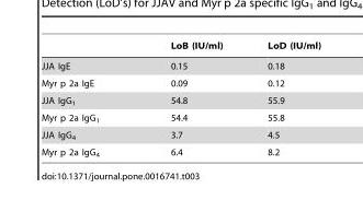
<table><thead><tr><td></td><td>LoB (IU/ml)</td><td>LoD (IU/ml)</td></tr></thead><tbody><tr><td>JJA IgE</td><td>0.15</td><td>0.18</td></tr><tr><td>Myr p 2a IgE</td><td>0.09</td><td>0.12</td></tr><tr><td>JJA IgG<sub>1</sub></td><td>54.8</td><td>55.9</td></tr><tr><td>Myr p 2a IgG<sub>1</sub></td><td>54.4</td><td>55.8</td></tr><tr><td>JJA IgG<sub>4</sub></td><td>3.7</td><td>4.5</td></tr><tr><td>Myr p 2a IgG<sub>4</sub></td><td>6.4</td><td>8.2</td></tr></tbody></table>